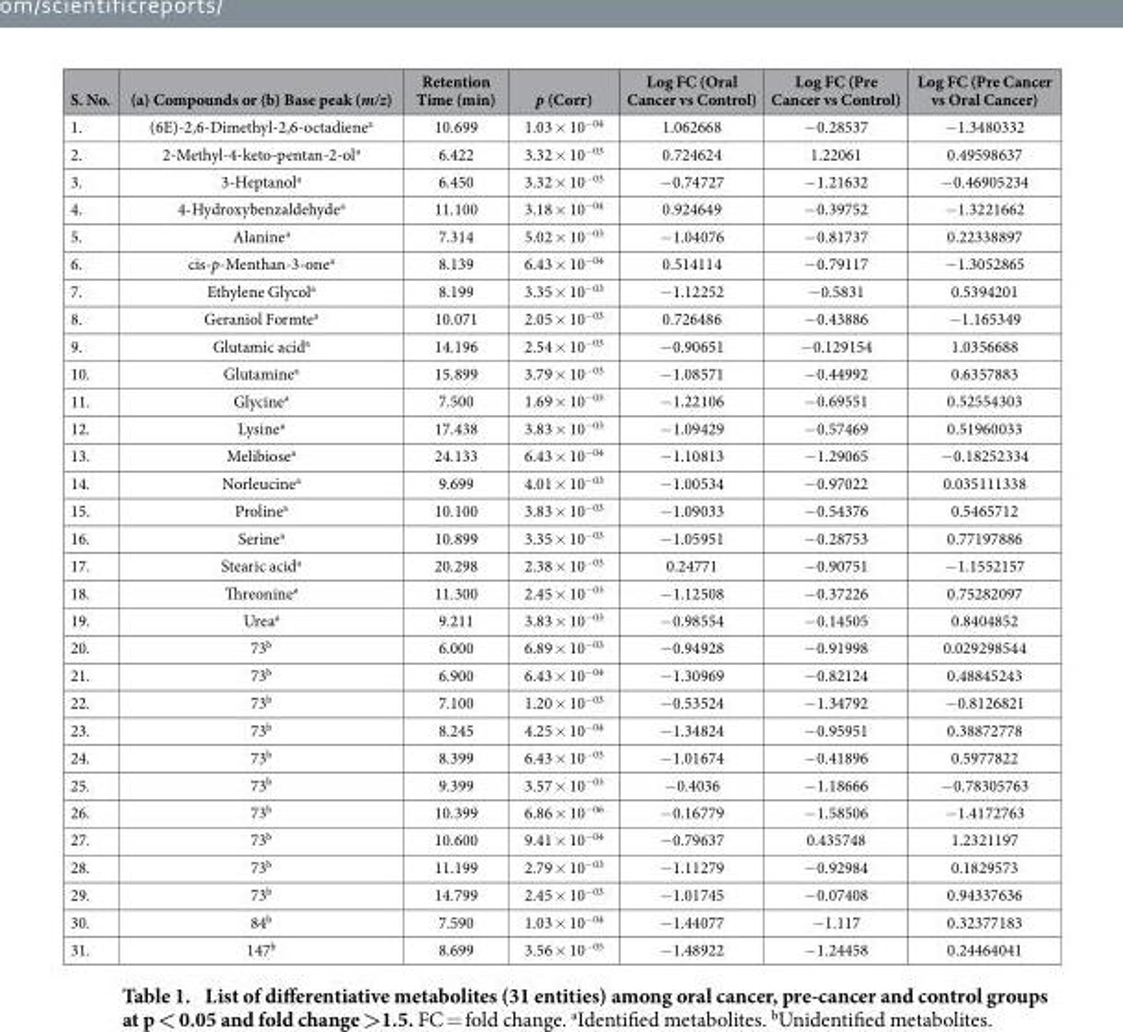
<table><thead><tr><td>S. No.</td><td>(a) Compounds or (b) Base peak (m/z)</td><td>Retention Time (min)</td><td>p (Corr)</td><td>Log FC (Oral Cancer vs Control)</td><td>Log FC (Pre Cancer vs Control)</td><td>Log FC (Pre Cancer vs Oral Cancer)</td></tr></thead><tbody><tr><td>1.</td><td>(6E)-2,6-Dimethyl-2,6-octadiene<sup>a</sup></td><td>10.699</td><td>1.03 × 10<sup>−04</sup></td><td>1.062668</td><td>− 0.28537</td><td>− 1.3480332</td></tr><tr><td>2.</td><td>2-Methyl-4-keto-pentan-2-ol<sup>a</sup></td><td>6.422</td><td>3.32 × 10<sup>−03</sup></td><td>0.724624</td><td>1.22061</td><td>0.49598637</td></tr><tr><td>3.</td><td>3-Heptanol<sup>a</sup></td><td>6.450</td><td>3.32 × 10<sup>−03</sup></td><td>− 0.74727</td><td>− 1.21632</td><td>− 0.46905234</td></tr><tr><td>4.</td><td>4-Hydroxybenzaldehyde<sup>a</sup></td><td>11.100</td><td>3.18 × 10<sup>−04</sup></td><td>0.924649</td><td>− 0.39752</td><td>− 1.3221662</td></tr><tr><td>5.</td><td>Alanine<sup>a</sup></td><td>7.314</td><td>5.02 × 10<sup>−03</sup></td><td>− 1.04076</td><td>− 0.81737</td><td>0.22338897</td></tr><tr><td>6.</td><td>cis-p-Menthan-3-one<sup>a</sup></td><td>8.139</td><td>6.43 × 10<sup>−04</sup></td><td>0.514114</td><td>− 0.79117</td><td>− 1.3052865</td></tr><tr><td>7.</td><td>Ethylene Glycol<sup>a</sup></td><td>8.199</td><td>3.35 × 10<sup>−03</sup></td><td>− 1.12252</td><td>− 0.5831</td><td>0.5394201</td></tr><tr><td>8.</td><td>Geraniol Formte<sup>a</sup></td><td>10.071</td><td>2.05 × 10<sup>−03</sup></td><td>0.726486</td><td>− 0.43886</td><td>− 1.165349</td></tr><tr><td>9.</td><td>Glutamic acid<sup>a</sup></td><td>14.196</td><td>2.54 × 10<sup>−03</sup></td><td>− 0.90651</td><td>− 0.129154</td><td>1.0356688</td></tr><tr><td>10.</td><td>Glutamine<sup>a</sup></td><td>15.899</td><td>3.79 × 10<sup>−03</sup></td><td>− 1.08571</td><td>− 0.44992</td><td>0.6357883</td></tr><tr><td>11.</td><td>Glycine<sup>a</sup></td><td>7.500</td><td>1.69 × 10<sup>−03</sup></td><td>− 1.22106</td><td>− 0.69551</td><td>0.52554303</td></tr><tr><td>12.</td><td>Lysine<sup>a</sup></td><td>17.438</td><td>3.83 × 10<sup>−03</sup></td><td>− 1.09429</td><td>− 0.57469</td><td>0.51960033</td></tr><tr><td>13.</td><td>Melibiose<sup>a</sup></td><td>24.133</td><td>6.43 × 10<sup>−04</sup></td><td>− 1.10813</td><td>− 1.29065</td><td>− 0.18252334</td></tr><tr><td>14.</td><td>Norleucine<sup>a</sup></td><td>9.699</td><td>4.01 × 10<sup>−03</sup></td><td>− 1.00534</td><td>− 0.97022</td><td>0.035111338</td></tr><tr><td>15.</td><td>Proline<sup>a</sup></td><td>10.100</td><td>3.83 × 10<sup>−03</sup></td><td>− 1.09033</td><td>− 0.54376</td><td>0.5465712</td></tr><tr><td>16.</td><td>Serine<sup>a</sup></td><td>10.899</td><td>3.35 × 10<sup>−03</sup></td><td>− 1.05951</td><td>− 0.28753</td><td>0.77197886</td></tr><tr><td>17.</td><td>Stearic acid<sup>a</sup></td><td>20.298</td><td>2.38 × 10<sup>−03</sup></td><td>0.24771</td><td>− 0.90751</td><td>− 1.1552157</td></tr><tr><td>18.</td><td>Threonine<sup>a</sup></td><td>11.300</td><td>2.45 × 10<sup>−03</sup></td><td>− 1.12508</td><td>− 0.37226</td><td>0.75282097</td></tr><tr><td>19.</td><td>Urea<sup>a</sup></td><td>9.211</td><td>3.83 × 10<sup>−03</sup></td><td>− 0.98554</td><td>− 0.14505</td><td>0.8404852</td></tr><tr><td>20.</td><td>73<sup>b</sup></td><td>6.000</td><td>6.89 × 10<sup>−03</sup></td><td>− 0.94928</td><td>− 0.91998</td><td>0.029298544</td></tr><tr><td>21.</td><td>73<sup>b</sup></td><td>6.900</td><td>6.43 × 10<sup>−04</sup></td><td>− 1.30969</td><td>− 0.82124</td><td>0.48845243</td></tr><tr><td>22.</td><td>73<sup>b</sup></td><td>7.100</td><td>1.20 × 10<sup>−03</sup></td><td>− 0.53524</td><td>− 1.34792</td><td>− 0.8126821</td></tr><tr><td>23.</td><td>73<sup>b</sup></td><td>8.245</td><td>4.25 × 10<sup>−04</sup></td><td>− 1.34824</td><td>− 0.95951</td><td>0.38872778</td></tr><tr><td>24.</td><td>73<sup>b</sup></td><td>8.399</td><td>6.43 × 10<sup>−03</sup></td><td>− 1.01674</td><td>− 0.41896</td><td>0.5977822</td></tr><tr><td>25.</td><td>73<sup>b</sup></td><td>9.399</td><td>3.57 × 10<sup>−03</sup></td><td>− 0.4036</td><td>− 1.18666</td><td>− 0.78305763</td></tr><tr><td>26.</td><td>73<sup>b</sup></td><td>10.399</td><td>6.86 × 10<sup>−06</sup></td><td>− 0.16779</td><td>− 1.58506</td><td>− 1.4172763</td></tr><tr><td>27.</td><td>73<sup>b</sup></td><td>10.600</td><td>9.41 × 10<sup>−04</sup></td><td>− 0.79637</td><td>0.435748</td><td>1.2321197</td></tr><tr><td>28.</td><td>73<sup>b</sup></td><td>11.199</td><td>2.79 × 10<sup>−03</sup></td><td>− 1.11279</td><td>− 0.92984</td><td>0.1829573</td></tr><tr><td>29.</td><td>73<sup>b</sup></td><td>14.799</td><td>2.45 × 10<sup>−03</sup></td><td>− 1.01745</td><td>− 0.07408</td><td>0.94337636</td></tr><tr><td>30.</td><td>84<sup>b</sup></td><td>7.590</td><td>1.03 × 10<sup>−04</sup></td><td>− 1.44077</td><td>− 1.117</td><td>0.32377183</td></tr><tr><td>31.</td><td>147<sup>b</sup></td><td>8.699</td><td>3.56 × 10<sup>−05</sup></td><td>− 1.48922</td><td>− 1.24458</td><td>0.24464041</td></tr></tbody></table>